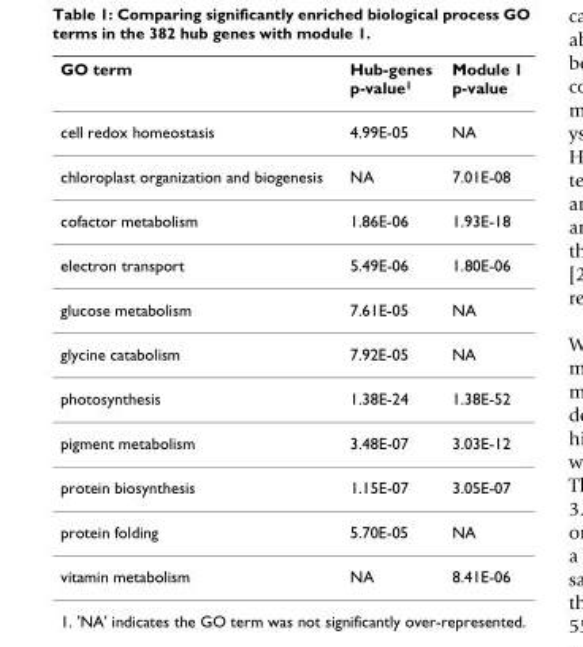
<table><thead><tr><td>GO term</td><td>Hub-genes p-value<sup>1</sup></td><td>Module 1 p-value</td></tr></thead><tbody><tr><td>cell redox homeostasis</td><td>4.99E-05</td><td>NA</td></tr><tr><td>chloroplast organization and biogenesis</td><td>NA</td><td>7.01E-08</td></tr><tr><td>cofactor metabolism</td><td>1.86E-06</td><td>1.93E-18</td></tr><tr><td>electron transport</td><td>5.49E-06</td><td>1.80E-06</td></tr><tr><td>glucose metabolism</td><td>7.61E-05</td><td>NA</td></tr><tr><td>glycine catabolism</td><td>7.92E-05</td><td>NA</td></tr><tr><td>photosynthesis</td><td>1.38E-24</td><td>1.38E-52</td></tr><tr><td>pigment metabolism</td><td>3.48E-07</td><td>3.03E-12</td></tr><tr><td>protein biosynthesis</td><td>1.15E-07</td><td>3.05E-07</td></tr><tr><td>protein folding</td><td>5.70E-05</td><td>NA</td></tr><tr><td>vitamin metabolism</td><td>NA</td><td>8.41E-06</td></tr></tbody></table>